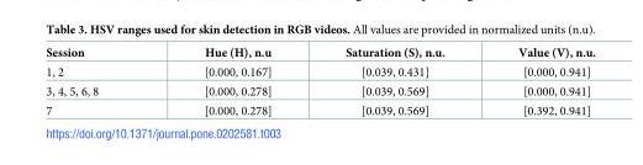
<table><thead><tr><td>Session</td><td>Hue (H), n.u</td><td>Saturation (S), n.u.</td><td>Value (V), n.u.</td></tr></thead><tbody><tr><td>1, 2</td><td>[0.000, 0.167]</td><td>[0.039, 0.431]</td><td>[0.000, 0.941]</td></tr><tr><td>3, 4, 5, 6, 8</td><td>[0.000, 0.278]</td><td>[0.039, 0.569]</td><td>[0.000, 0.941]</td></tr><tr><td>7</td><td>[0.000, 0.278]</td><td>[0.039, 0.569]</td><td>[0.392, 0.941]</td></tr></tbody></table>